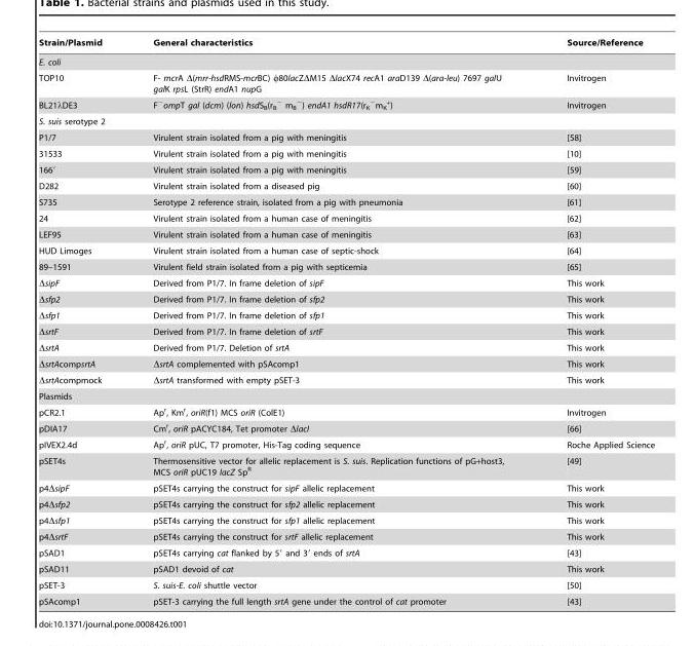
<table><thead><tr><td>Strain/Plasmid</td><td>General characteristics</td><td>Source/Reference</td></tr></thead><tbody><tr><td colspan="3">E. coli</td></tr><tr><td>TOP10</td><td>F- mcrA Δ(mrr-hsdRMS-mcrBC) φ80lacZΔM15 ΔlacX74 recA1 araD139 Δ(ara-leu) 7697 galU galK rpsL (StrR) endA1 nupG</td><td>Invitrogen</td></tr><tr><td>BL21λDE3</td><td>F<sup>−</sup>ompT gal (dcm) (lon) hsdS<sub>B</sub>(r<sub>B</sub> <sup>−</sup> m<sub>B</sub> <sup>−</sup>) endA1 hsdR17(r<sub>K</sub> <sup>−</sup>m<sub>K</sub> <sup>+</sup>)</td><td>Invitrogen</td></tr><tr><td colspan="3">S. suis serotype 2</td></tr><tr><td>P1/7</td><td>Virulent strain isolated from a pig with meningitis</td><td>[58]</td></tr><tr><td>31533</td><td>Virulent strain isolated from a pig with meningitis</td><td>[10]</td></tr><tr><td>166′</td><td>Virulent strain isolated from a pig with meningitis</td><td>[59]</td></tr><tr><td>D282</td><td>Virulent strain isolated from a diseased pig</td><td>[60]</td></tr><tr><td>S735</td><td>Serotype 2 reference strain, isolated from a pig with pneumonia</td><td>[61]</td></tr><tr><td>24</td><td>Virulent strain isolated from a human case of meningitis</td><td>[62]</td></tr><tr><td>LEF95</td><td>Virulent strain isolated from a human case of meningitis</td><td>[63]</td></tr><tr><td>HUD Limoges</td><td>Virulent strain isolated from a human case of septic-shock</td><td>[64]</td></tr><tr><td>89–1591</td><td>Virulent field strain isolated from a pig with septicemia</td><td>[65]</td></tr><tr><td>ΔsipF</td><td>Derived from P1/7. In frame deletion of sipF</td><td>This work</td></tr><tr><td>Δsfp2</td><td>Derived from P1/7. In frame deletion of sfp2</td><td>This work</td></tr><tr><td>Δsfp1</td><td>Derived from P1/7. In frame deletion of sfp1</td><td>This work</td></tr><tr><td>ΔsrtF</td><td>Derived from P1/7. In frame deletion of srtF</td><td>This work</td></tr><tr><td>ΔsrtA</td><td>Derived from P1/7. Deletion of srtA</td><td>This work</td></tr><tr><td>ΔsrtAcompsrtA</td><td>ΔsrtA complemented with pSAcomp1</td><td>This work</td></tr><tr><td>ΔsrtAcompmock</td><td>ΔsrtA transformed with empty pSET-3</td><td>This work</td></tr><tr><td colspan="3">Plasmids</td></tr><tr><td>pCR2.1</td><td>Ap<sup>r</sup>, Km<sup>r</sup>, oriR(f1) MCS oriR (ColE1)</td><td>Invitrogen</td></tr><tr><td>pDIA17</td><td>Cm<sup>r</sup>, oriR pACYC184, Tet promoter ΔlacI</td><td>[66]</td></tr><tr><td>pIVEX2.4d</td><td>Ap<sup>r</sup>, oriR pUC, T7 promoter, His-Tag coding sequence</td><td>Roche Applied Science</td></tr><tr><td>pSET4s</td><td>Thermosensitive vector for allelic replacement is S. suis. Replication functions of pG+host3, MCS oriR pUC19 lacZ Sp<sup>R</sup></td><td>[49]</td></tr><tr><td>p4ΔsipF</td><td>pSET4s carrying the construct for sipF allelic replacement</td><td>This work</td></tr><tr><td>p4Δsfp2</td><td>pSET4s carrying the construct for sfp2 allelic replacement</td><td>This work</td></tr><tr><td>p4Δsfp1</td><td>pSET4s carrying the construct for sfp1 allelic replacement</td><td>This work</td></tr><tr><td>p4ΔsrtF</td><td>pSET4s carrying the construct for srtF allelic replacement</td><td>This work</td></tr><tr><td>pSAD1</td><td>pSET4s carrying cat flanked by 5′ and 3′ ends of srtA</td><td>[43]</td></tr><tr><td>pSAD11</td><td>pSAD1 devoid of cat</td><td>This work</td></tr><tr><td>pSET-3</td><td>S. suis-E. coli shuttle vector</td><td>[50]</td></tr><tr><td>pSAcomp1</td><td>pSET-3 carrying the full length srtA gene under the control of cat promoter</td><td>[43]</td></tr></tbody></table>